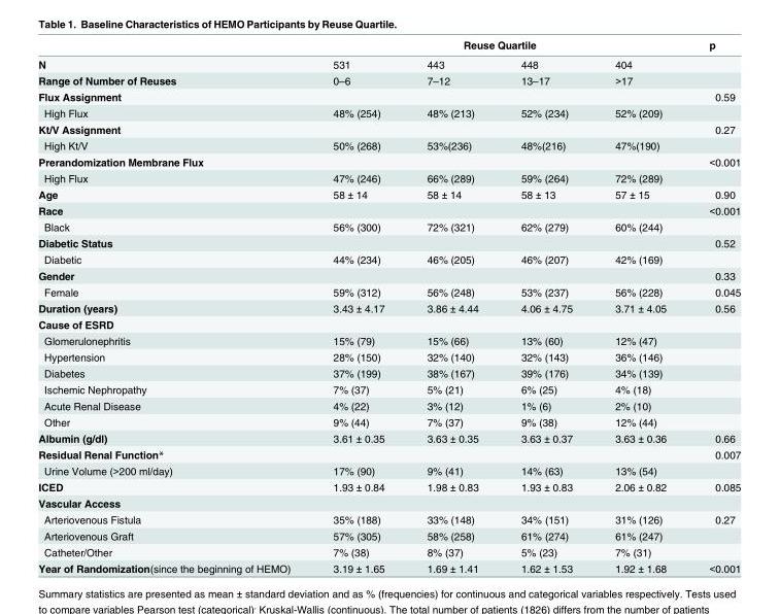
<table><thead><tr><td rowspan="2">N</td><td colspan="4">Reuse Quartile</td><td rowspan="2">p</td></tr><tr><td>531</td><td>443</td><td>448</td><td>404</td></tr></thead><tbody><tr><td>Range of Number of Reuses</td><td>0–6</td><td>7–12</td><td>13–17</td><td>&gt;17</td><td></td></tr><tr><td>Flux Assignment</td><td></td><td></td><td></td><td></td><td>0.59</td></tr><tr><td>High Flux</td><td>48% (254)</td><td>48% (213)</td><td>52% (234)</td><td>52% (209)</td><td></td></tr><tr><td>Kt/V Assignment</td><td></td><td></td><td></td><td></td><td>0.27</td></tr><tr><td>High Kt/V</td><td>50% (268)</td><td>53%(236)</td><td>48%(216)</td><td>47%(190)</td><td></td></tr><tr><td>Prerandomization Membrane Flux</td><td></td><td></td><td></td><td></td><td>&lt;0.001</td></tr><tr><td>High Flux</td><td>47% (246)</td><td>66% (289)</td><td>59% (264)</td><td>72% (289)</td><td></td></tr><tr><td>Age</td><td>58 ± 14</td><td>58 ± 14</td><td>58 ± 13</td><td>57 ± 15</td><td>0.90</td></tr><tr><td>Race</td><td></td><td></td><td></td><td></td><td>&lt;0.001</td></tr><tr><td>Black</td><td>56% (300)</td><td>72% (321)</td><td>62% (279)</td><td>60% (244)</td><td></td></tr><tr><td>Diabetic Status</td><td></td><td></td><td></td><td></td><td>0.52</td></tr><tr><td>Diabetic</td><td>44% (234)</td><td>46% (205)</td><td>46% (207)</td><td>42% (169)</td><td></td></tr><tr><td>Gender</td><td></td><td></td><td></td><td></td><td>0.33</td></tr><tr><td>Female</td><td>59% (312)</td><td>56% (248)</td><td>53% (237)</td><td>56% (228)</td><td>0.045</td></tr><tr><td>Duration (years)</td><td>3.43 ± 4.17</td><td>3.86 ± 4.44</td><td>4.06 ± 4.75</td><td>3.71 ± 4.05</td><td>0.56</td></tr><tr><td colspan="6">Cause of ESRD</td></tr><tr><td>Glomerulonephritis</td><td>15% (79)</td><td>15% (66)</td><td>13% (60)</td><td>12% (47)</td><td></td></tr><tr><td>Hypertension</td><td>28% (150)</td><td>32% (140)</td><td>32% (143)</td><td>36% (146)</td><td></td></tr><tr><td>Diabetes</td><td>37% (199)</td><td>38% (167)</td><td>39% (176)</td><td>34% (139)</td><td></td></tr><tr><td>Ischemic Nephropathy</td><td>7% (37)</td><td>5% (21)</td><td>6% (25)</td><td>4% (18)</td><td></td></tr><tr><td>Acute Renal Disease</td><td>4% (22)</td><td>3% (12)</td><td>1% (6)</td><td>2% (10)</td><td></td></tr><tr><td>Other</td><td>9% (44)</td><td>7% (37)</td><td>9% (38)</td><td>12% (44)</td><td></td></tr><tr><td>Albumin (g/dl)</td><td>3.61 ± 0.35</td><td>3.63 ± 0.35</td><td>3.63 ± 0.37</td><td>3.63 ± 0.36</td><td>0.66</td></tr><tr><td>Residual Renal Function*</td><td></td><td></td><td></td><td></td><td>0.007</td></tr><tr><td>Urine Volume (&gt;200 ml/day)</td><td>17% (90)</td><td>9% (41)</td><td>14% (63)</td><td>13% (54)</td><td></td></tr><tr><td>ICED</td><td>1.93 ± 0.84</td><td>1.98 ± 0.83</td><td>1.93 ± 0.83</td><td>2.06 ± 0.82</td><td>0.085</td></tr><tr><td colspan="6">Vascular Access</td></tr><tr><td>Arteriovenous Fistula</td><td>35% (188)</td><td>33% (148)</td><td>34% (151)</td><td>31% (126)</td><td>0.27</td></tr><tr><td>Arteriovenous Graft</td><td>57% (305)</td><td>58% (258)</td><td>61% (274)</td><td>61% (247)</td><td></td></tr><tr><td>Catheter/Other</td><td>7% (38)</td><td>8% (37)</td><td>5% (23)</td><td>7% (31)</td><td></td></tr><tr><td>Year of Randomization(since the beginning of HEMO)</td><td>3.19 ± 1.65</td><td>1.69 ± 1.41</td><td>1.62 ± 1.53</td><td>1.92 ± 1.68</td><td>&lt;0.001</td></tr></tbody></table>